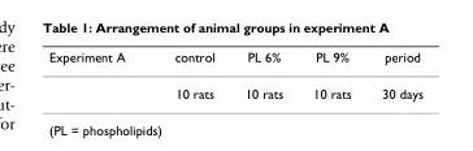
<table><thead><tr><td>Experiment A</td><td>control</td><td>PL 6%</td><td>PL 9%</td><td>period</td></tr></thead><tbody><tr><td></td><td>10 rats</td><td>10 rats</td><td>10 rats</td><td>30 days</td></tr></tbody></table>